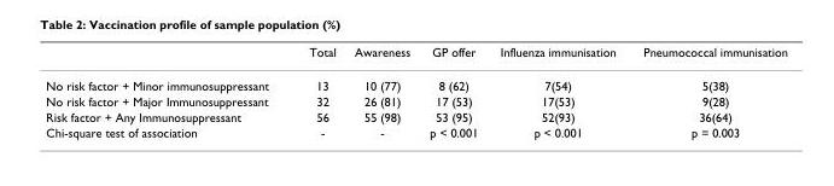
<table><thead><tr><td></td><td>Total</td><td>Awareness</td><td>GP offer</td><td>Influenza immunisation</td><td>Pneumococcal immunisation</td></tr></thead><tbody><tr><td>No risk factor + Minor immunosuppressant</td><td>13</td><td>10 (77)</td><td>8 (62)</td><td>7(54)</td><td>5(38)</td></tr><tr><td>No risk factor + Major Immunosuppressant</td><td>32</td><td>26 (81)</td><td>17 (53)</td><td>17(53)</td><td>9(28)</td></tr><tr><td>Risk factor + Any Immunosuppressant</td><td>56</td><td>55 (98)</td><td>53 (95)</td><td>52(93)</td><td>36(64)</td></tr><tr><td>Chi-square test of association</td><td>-</td><td>-</td><td>p &lt; 0.001</td><td>p &lt; 0.001</td><td>p = 0.003</td></tr></tbody></table>